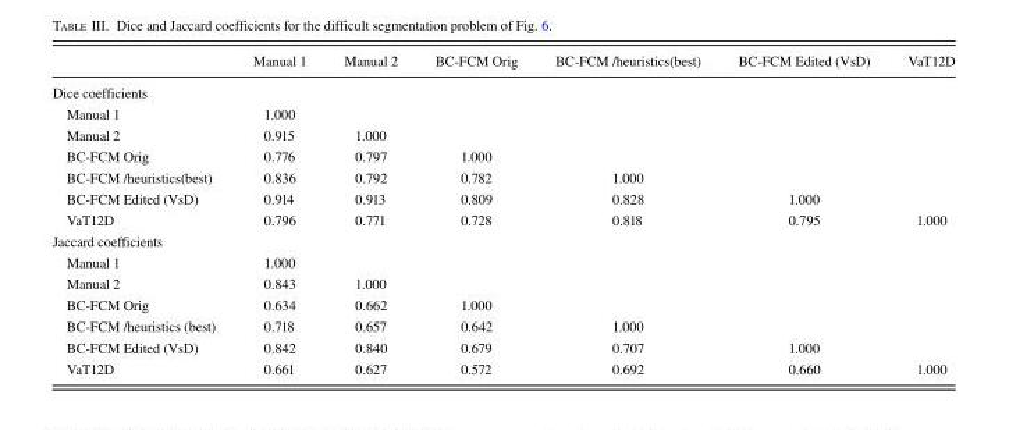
<table><thead><tr><td></td><td>Manual 1</td><td>Manual 2</td><td>BC-FCM Orig</td><td>BC-FCM /heuristics(best)</td><td>BC-FCM Edited (VsD)</td><td>VaT12D</td></tr></thead><tbody><tr><td colspan="7">Dice coefficients</td></tr><tr><td>Manual 1</td><td>1.000</td><td></td><td></td><td></td><td></td><td></td></tr><tr><td>Manual 2</td><td>0.915</td><td>1.000</td><td></td><td></td><td></td><td></td></tr><tr><td>BC-FCM Orig</td><td>0.776</td><td>0.797</td><td>1.000</td><td></td><td></td><td></td></tr><tr><td>BC-FCM /heuristics(best)</td><td>0.836</td><td>0.792</td><td>0.782</td><td>1.000</td><td></td><td></td></tr><tr><td>BC-FCM Edited (VsD)</td><td>0.914</td><td>0.913</td><td>0.809</td><td>0.828</td><td>1.000</td><td></td></tr><tr><td>VaT12D</td><td>0.796</td><td>0.771</td><td>0.728</td><td>0.818</td><td>0.795</td><td>1.000</td></tr><tr><td colspan="7">Jaccard coefficients</td></tr><tr><td>Manual 1</td><td>1.000</td><td></td><td></td><td></td><td></td><td></td></tr><tr><td>Manual 2</td><td>0.843</td><td>1.000</td><td></td><td></td><td></td><td></td></tr><tr><td>BC-FCM Orig</td><td>0.634</td><td>0.662</td><td>1.000</td><td></td><td></td><td></td></tr><tr><td>BC-FCM /heuristics (best)</td><td>0.718</td><td>0.657</td><td>0.642</td><td>1.000</td><td></td><td></td></tr><tr><td>BC-FCM Edited (VsD)</td><td>0.842</td><td>0.840</td><td>0.679</td><td>0.707</td><td>1.000</td><td></td></tr><tr><td>VaT12D</td><td>0.661</td><td>0.627</td><td>0.572</td><td>0.692</td><td>0.660</td><td>1.000</td></tr></tbody></table>